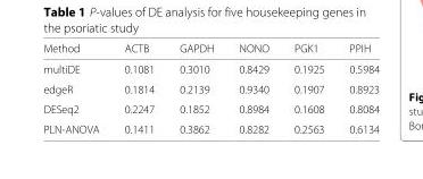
<table><thead><tr><td>Method</td><td>ACTB</td><td>GAPDH</td><td>NONO</td><td>PGK1</td><td>PPIH</td></tr></thead><tbody><tr><td>multiDE</td><td>0.1081</td><td>0.3010</td><td>0.8429</td><td>0.1925</td><td>0.5984</td></tr><tr><td>edgeR</td><td>0.1814</td><td>0.2139</td><td>0.9340</td><td>0.1907</td><td>0.8923</td></tr><tr><td>DESeq2</td><td>0.2247</td><td>0.1852</td><td>0.8984</td><td>0.1608</td><td>0.8084</td></tr><tr><td>PLN-ANOVA</td><td>0.1411</td><td>0.3862</td><td>0.8282</td><td>0.2563</td><td>0.6134</td></tr></tbody></table>